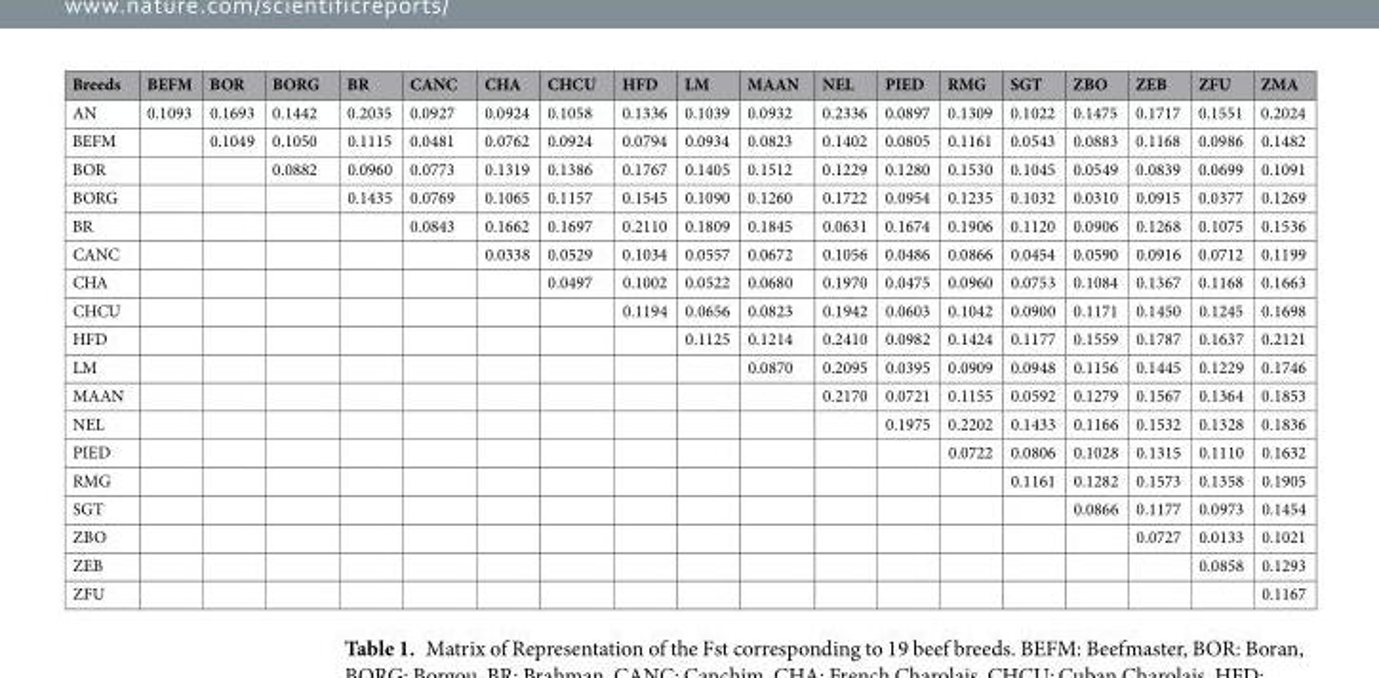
<table><thead><tr><td>Breeds</td><td>BEFM</td><td>BOR</td><td>BORG</td><td>BR</td><td>CANC</td><td>CHA</td><td>CHCU</td><td>HFD</td><td>LM</td><td>MAAN</td><td>NEL</td><td>PIED</td><td>RMG</td><td>SGT</td><td>ZBO</td><td>ZEB</td><td>ZFU</td><td>ZMA</td></tr></thead><tbody><tr><td>AN</td><td>0.1093</td><td>0.1693</td><td>0.1442</td><td>0.2035</td><td>0.0927</td><td>0.0924</td><td>0.1058</td><td>0.1336</td><td>0.1039</td><td>0.0932</td><td>0.2336</td><td>0.0897</td><td>0.1309</td><td>0.1022</td><td>0.1475</td><td>0.1717</td><td>0.1551</td><td>0.2024</td></tr><tr><td>BEFM</td><td></td><td>0.1049</td><td>0.1050</td><td>0.1115</td><td>0.0481</td><td>0.0762</td><td>0.0924</td><td>0.0794</td><td>0.0934</td><td>0.0823</td><td>0.1402</td><td>0.0805</td><td>0.1161</td><td>0.0543</td><td>0.0883</td><td>0.1168</td><td>0.0986</td><td>0.1482</td></tr><tr><td>BOR</td><td></td><td></td><td>0.0882</td><td>0.0960</td><td>0.0773</td><td>0.1319</td><td>0.1386</td><td>0.1767</td><td>0.1405</td><td>0.1512</td><td>0.1229</td><td>0.1280</td><td>0.1530</td><td>0.1045</td><td>0.0549</td><td>0.0839</td><td>0.0699</td><td>0.1091</td></tr><tr><td>BORG</td><td></td><td></td><td></td><td>0.1435</td><td>0.0769</td><td>0.1065</td><td>0.1157</td><td>0.1545</td><td>0.1090</td><td>0.1260</td><td>0.1722</td><td>0.0954</td><td>0.1235</td><td>0.1032</td><td>0.0310</td><td>0.0915</td><td>0.0377</td><td>0.1269</td></tr><tr><td>BR</td><td></td><td></td><td></td><td></td><td>0.0843</td><td>0.1662</td><td>0.1697</td><td>0.2110</td><td>0.1809</td><td>0.1845</td><td>0.0631</td><td>0.1674</td><td>0.1906</td><td>0.1120</td><td>0.0906</td><td>0.1268</td><td>0.1075</td><td>0.1536</td></tr><tr><td>CANC</td><td></td><td></td><td></td><td></td><td></td><td>0.0338</td><td>0.0529</td><td>0.1034</td><td>0.0557</td><td>0.0672</td><td>0.1056</td><td>0.0486</td><td>0.0866</td><td>0.0454</td><td>0.0590</td><td>0.0916</td><td>0.0712</td><td>0.1199</td></tr><tr><td>CHA</td><td></td><td></td><td></td><td></td><td></td><td></td><td>0.0497</td><td>0.1002</td><td>0.0522</td><td>0.0680</td><td>0.1970</td><td>0.0475</td><td>0.0960</td><td>0.0753</td><td>0.1084</td><td>0.1367</td><td>0.1168</td><td>0.1663</td></tr><tr><td>CHCU</td><td></td><td></td><td></td><td></td><td></td><td></td><td></td><td>0.1194</td><td>0.0656</td><td>0.0823</td><td>0.1942</td><td>0.0603</td><td>0.1042</td><td>0.0900</td><td>0.1171</td><td>0.1450</td><td>0.1245</td><td>0.1698</td></tr><tr><td>HFD</td><td></td><td></td><td></td><td></td><td></td><td></td><td></td><td></td><td>0.1125</td><td>0.1214</td><td>0.2410</td><td>0.0982</td><td>0.1424</td><td>0.1177</td><td>0.1559</td><td>0.1787</td><td>0.1637</td><td>0.2121</td></tr><tr><td>LM</td><td></td><td></td><td></td><td></td><td></td><td></td><td></td><td></td><td></td><td>0.0870</td><td>0.2095</td><td>0.0395</td><td>0.0909</td><td>0.0948</td><td>0.1156</td><td>0.1445</td><td>0.1229</td><td>0.1746</td></tr><tr><td>MAAN</td><td></td><td></td><td></td><td></td><td></td><td></td><td></td><td></td><td></td><td></td><td>0.2170</td><td>0.0721</td><td>0.1155</td><td>0.0592</td><td>0.1279</td><td>0.1567</td><td>0.1364</td><td>0.1853</td></tr><tr><td>NEL</td><td></td><td></td><td></td><td></td><td></td><td></td><td></td><td></td><td></td><td></td><td></td><td>0.1975</td><td>0.2202</td><td>0.1433</td><td>0.1166</td><td>0.1532</td><td>0.1328</td><td>0.1836</td></tr><tr><td>PIED</td><td></td><td></td><td></td><td></td><td></td><td></td><td></td><td></td><td></td><td></td><td></td><td></td><td>0.0722</td><td>0.0806</td><td>0.1028</td><td>0.1315</td><td>0.1110</td><td>0.1632</td></tr><tr><td>RMG</td><td></td><td></td><td></td><td></td><td></td><td></td><td></td><td></td><td></td><td></td><td></td><td></td><td></td><td>0.1161</td><td>0.1282</td><td>0.1573</td><td>0.1358</td><td>0.1905</td></tr><tr><td>SGT</td><td></td><td></td><td></td><td></td><td></td><td></td><td></td><td></td><td></td><td></td><td></td><td></td><td></td><td></td><td>0.0866</td><td>0.1177</td><td>0.0973</td><td>0.1454</td></tr><tr><td>ZBO</td><td></td><td></td><td></td><td></td><td></td><td></td><td></td><td></td><td></td><td></td><td></td><td></td><td></td><td></td><td></td><td>0.0727</td><td>0.0133</td><td>0.1021</td></tr><tr><td>ZEB</td><td></td><td></td><td></td><td></td><td></td><td></td><td></td><td></td><td></td><td></td><td></td><td></td><td></td><td></td><td></td><td></td><td>0.0858</td><td>0.1293</td></tr><tr><td>ZFU</td><td></td><td></td><td></td><td></td><td></td><td></td><td></td><td></td><td></td><td></td><td></td><td></td><td></td><td></td><td></td><td></td><td></td><td>0.1167</td></tr></tbody></table>